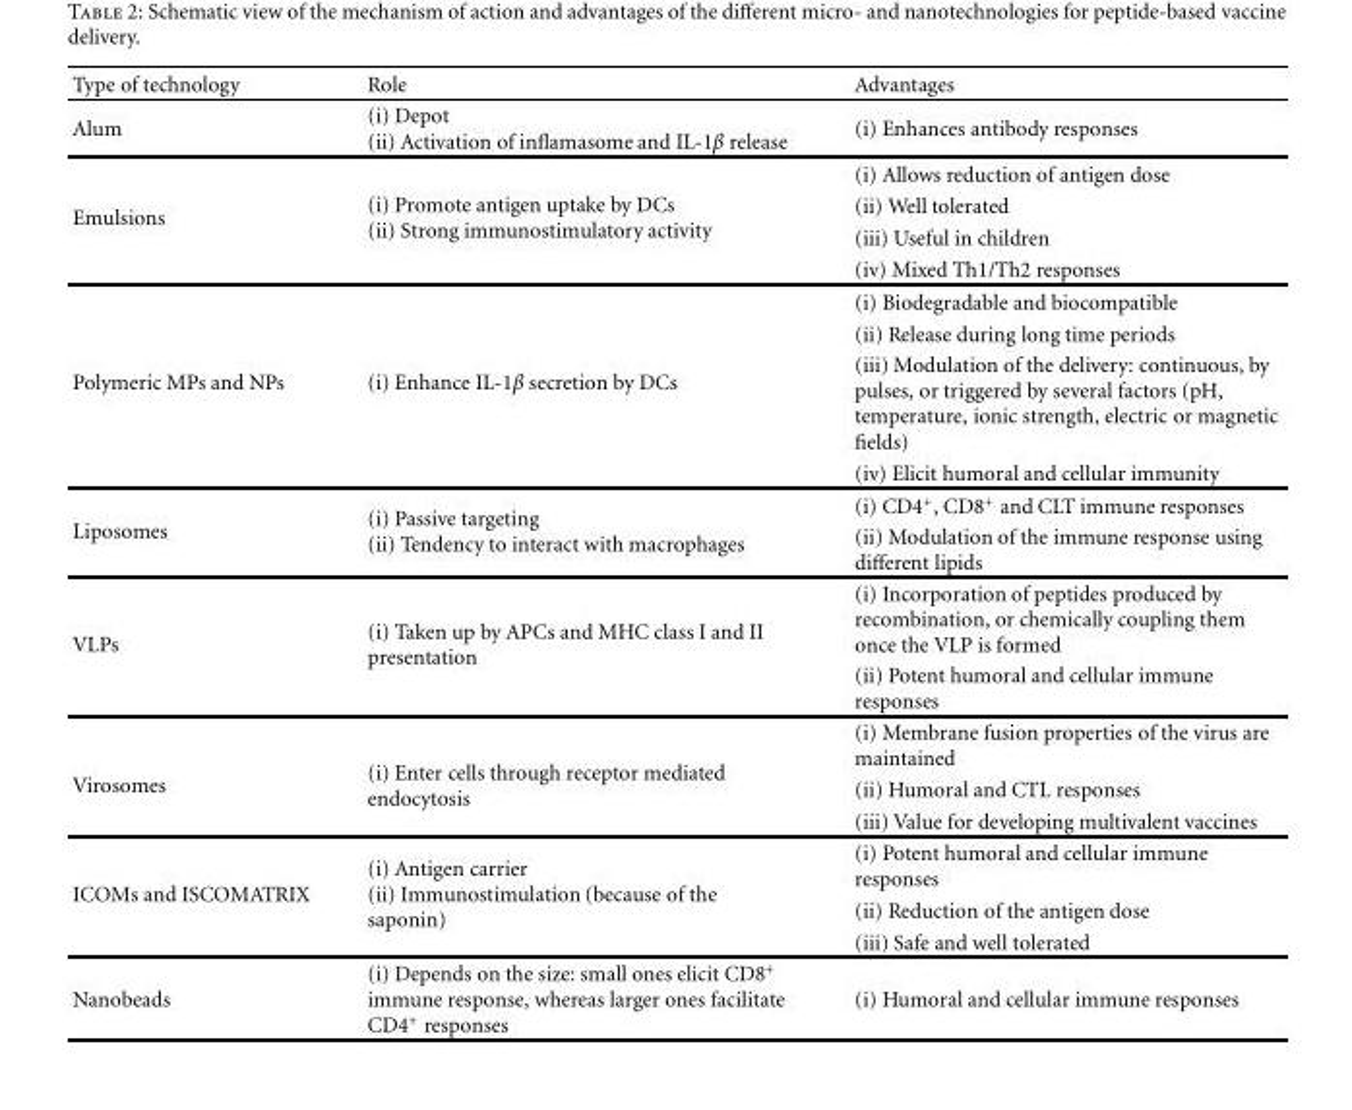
<table><thead><tr><td>Type of technology</td><td>Role</td><td>Advantages</td></tr></thead><tbody><tr><td>Alum</td><td>(i) Depot (ii) Activation of inflamasome and IL-1β release</td><td>(i) Enhances antibody responses</td></tr><tr><td rowspan="4">Emulsions</td><td rowspan="4">(i) Promote antigen uptake by DCs (ii) Strong immunostimulatory activity</td><td>(i) Allows reduction of antigen dose</td></tr><tr><td>(ii) Well tolerated</td></tr><tr><td>(iii) Useful in children</td></tr><tr><td>(iv) Mixed Th1/Th2 responses</td></tr><tr><td rowspan="4">Polymeric MPs and NPs</td><td rowspan="4">(i) Enhance IL-1β secretion by DCs</td><td>(i) Biodegradable and biocompatible</td></tr><tr><td>(ii) Release during long time periods</td></tr><tr><td>(iii) Modulation of the delivery: continuous, by pulses, or triggered by several factors (pH, temperature, ionic strength, electric or magnetic fields)</td></tr><tr><td>(iv) Elicit humoral and cellular immunity</td></tr><tr><td rowspan="2">Liposomes</td><td rowspan="2">(i) Passive targeting (ii) Tendency to interact with macrophages</td><td>(i) CD4<sup>+</sup>, CD8<sup>+</sup> and CLT immune responses</td></tr><tr><td>(ii) Modulation of the immune response using different lipids</td></tr><tr><td rowspan="2">VLPs</td><td rowspan="2">(i) Taken up by APCs and MHC class I and II presentation</td><td>(i) Incorporation of peptides produced by recombination, or chemically coupling them once the VLP is formed</td></tr><tr><td>(ii) Potent humoral and cellular immune responses</td></tr><tr><td rowspan="3">Virosomes</td><td rowspan="3">(i) Enter cells through receptor mediated endocytosis</td><td>(i) Membrane fusion properties of the virus are maintained</td></tr><tr><td>(ii) Humoral and CTL responses</td></tr><tr><td>(iii) Value for developing multivalent vaccines</td></tr><tr><td rowspan="3">ICOMs and ISCOMATRIX</td><td rowspan="3">(i) Antigen carrier (ii) Immunostimulation (because of the saponin)</td><td>(i) Potent humoral and cellular immune responses</td></tr><tr><td>(ii) Reduction of the antigen dose</td></tr><tr><td>(iii) Safe and well tolerated</td></tr><tr><td>Nanobeads</td><td>(i) Depends on the size: small ones elicit CD8<sup>+</sup> immune response, whereas larger ones facilitate CD4<sup>+</sup> responses</td><td>(i) Humoral and cellular immune responses</td></tr></tbody></table>